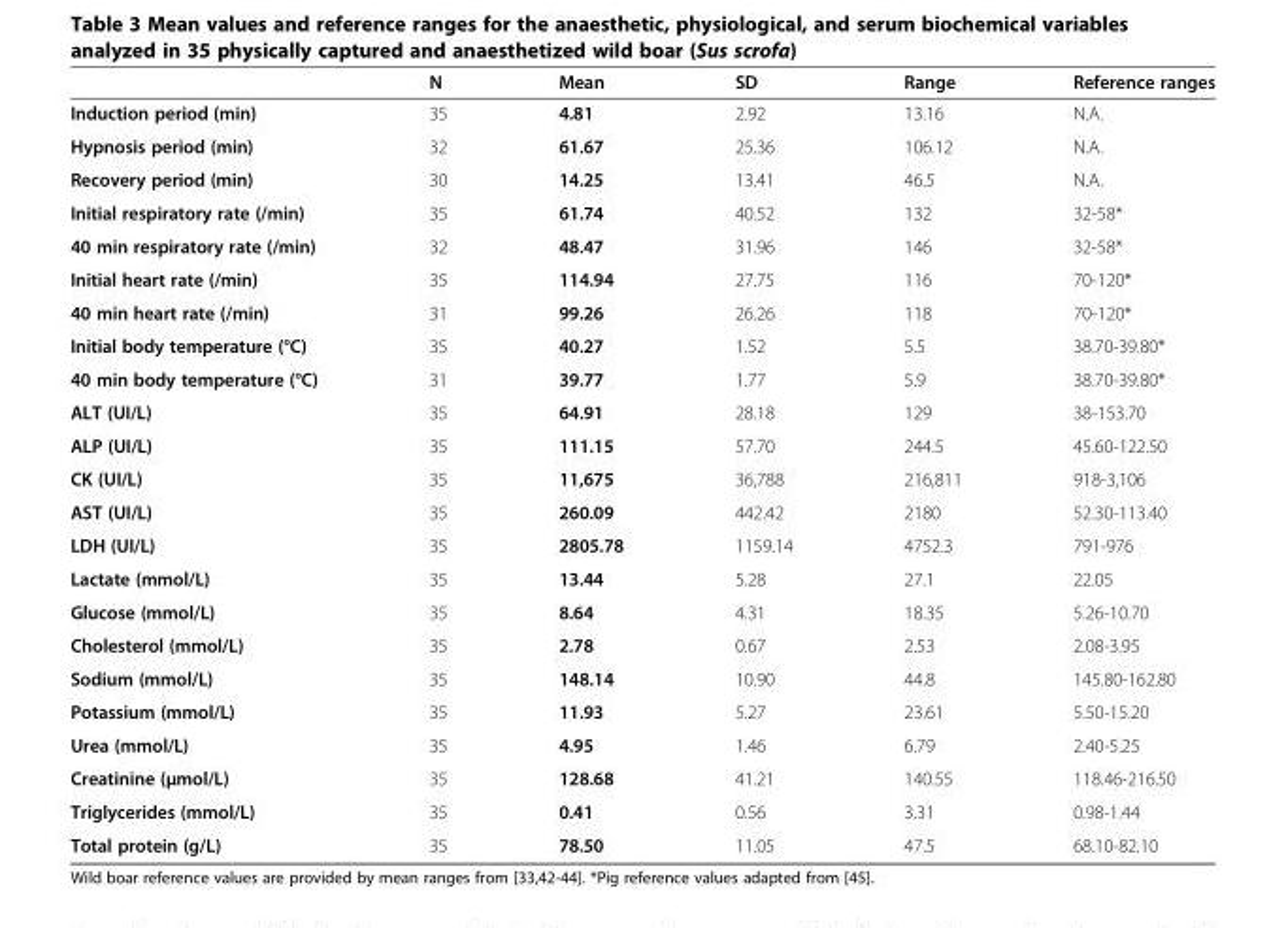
<table><thead><tr><td></td><td>N</td><td>Mean</td><td>SD</td><td>Range</td><td>Reference ranges</td></tr></thead><tbody><tr><td>Induction period (min)</td><td>35</td><td>4.81</td><td>2.92</td><td>13.16</td><td>N.A.</td></tr><tr><td>Hypnosis period (min)</td><td>32</td><td>61.67</td><td>25.36</td><td>106.12</td><td>N.A.</td></tr><tr><td>Recovery period (min)</td><td>30</td><td>14.25</td><td>13.41</td><td>46.5</td><td>N.A.</td></tr><tr><td>Initial respiratory rate (/min)</td><td>35</td><td>61.74</td><td>40.52</td><td>132</td><td>32-58*</td></tr><tr><td>40 min respiratory rate (/min)</td><td>32</td><td>48.47</td><td>31.96</td><td>146</td><td>32-58*</td></tr><tr><td>Initial heart rate (/min)</td><td>35</td><td>114.94</td><td>27.75</td><td>116</td><td>70-120*</td></tr><tr><td>40 min heart rate (/min)</td><td>31</td><td>99.26</td><td>26.26</td><td>118</td><td>70-120*</td></tr><tr><td>Initial body temperature (°C)</td><td>35</td><td>40.27</td><td>1.52</td><td>5.5</td><td>38.70-39.80*</td></tr><tr><td>40 min body temperature (°C)</td><td>31</td><td>39.77</td><td>1.77</td><td>5.9</td><td>38.70-39.80*</td></tr><tr><td>ALT (UI/L)</td><td>35</td><td>64.91</td><td>28.18</td><td>129</td><td>38-153.70</td></tr><tr><td>ALP (UI/L)</td><td>35</td><td>111.15</td><td>57.70</td><td>244.5</td><td>45.60-122.50</td></tr><tr><td>CK (UI/L)</td><td>35</td><td>11,675</td><td>36,788</td><td>216,811</td><td>918-3,106</td></tr><tr><td>AST (UI/L)</td><td>35</td><td>260.09</td><td>442.42</td><td>2180</td><td>52.30-113.40</td></tr><tr><td>LDH (UI/L)</td><td>35</td><td>2805.78</td><td>1159.14</td><td>4752.3</td><td>791-976</td></tr><tr><td>Lactate (mmol/L)</td><td>35</td><td>13.44</td><td>5.28</td><td>27.1</td><td>22.05</td></tr><tr><td>Glucose (mmol/L)</td><td>35</td><td>8.64</td><td>4.31</td><td>18.35</td><td>5.26-10.70</td></tr><tr><td>Cholesterol (mmol/L)</td><td>35</td><td>2.78</td><td>0.67</td><td>2.53</td><td>2.08-3.95</td></tr><tr><td>Sodium (mmol/L)</td><td>35</td><td>148.14</td><td>10.90</td><td>44.8</td><td>145.80-162.80</td></tr><tr><td>Potassium (mmol/L)</td><td>35</td><td>11.93</td><td>5.27</td><td>23.61</td><td>5.50-15.20</td></tr><tr><td>Urea (mmol/L)</td><td>35</td><td>4.95</td><td>1.46</td><td>6.79</td><td>2.40-5.25</td></tr><tr><td>Creatinine (μmol/L)</td><td>35</td><td>128.68</td><td>41.21</td><td>140.55</td><td>118.46-216.50</td></tr><tr><td>Triglycerides (mmol/L)</td><td>35</td><td>0.41</td><td>0.56</td><td>3.31</td><td>0.98-1.44</td></tr><tr><td>Total protein (g/L)</td><td>35</td><td>78.50</td><td>11.05</td><td>47.5</td><td>68.10-82.10</td></tr></tbody></table>